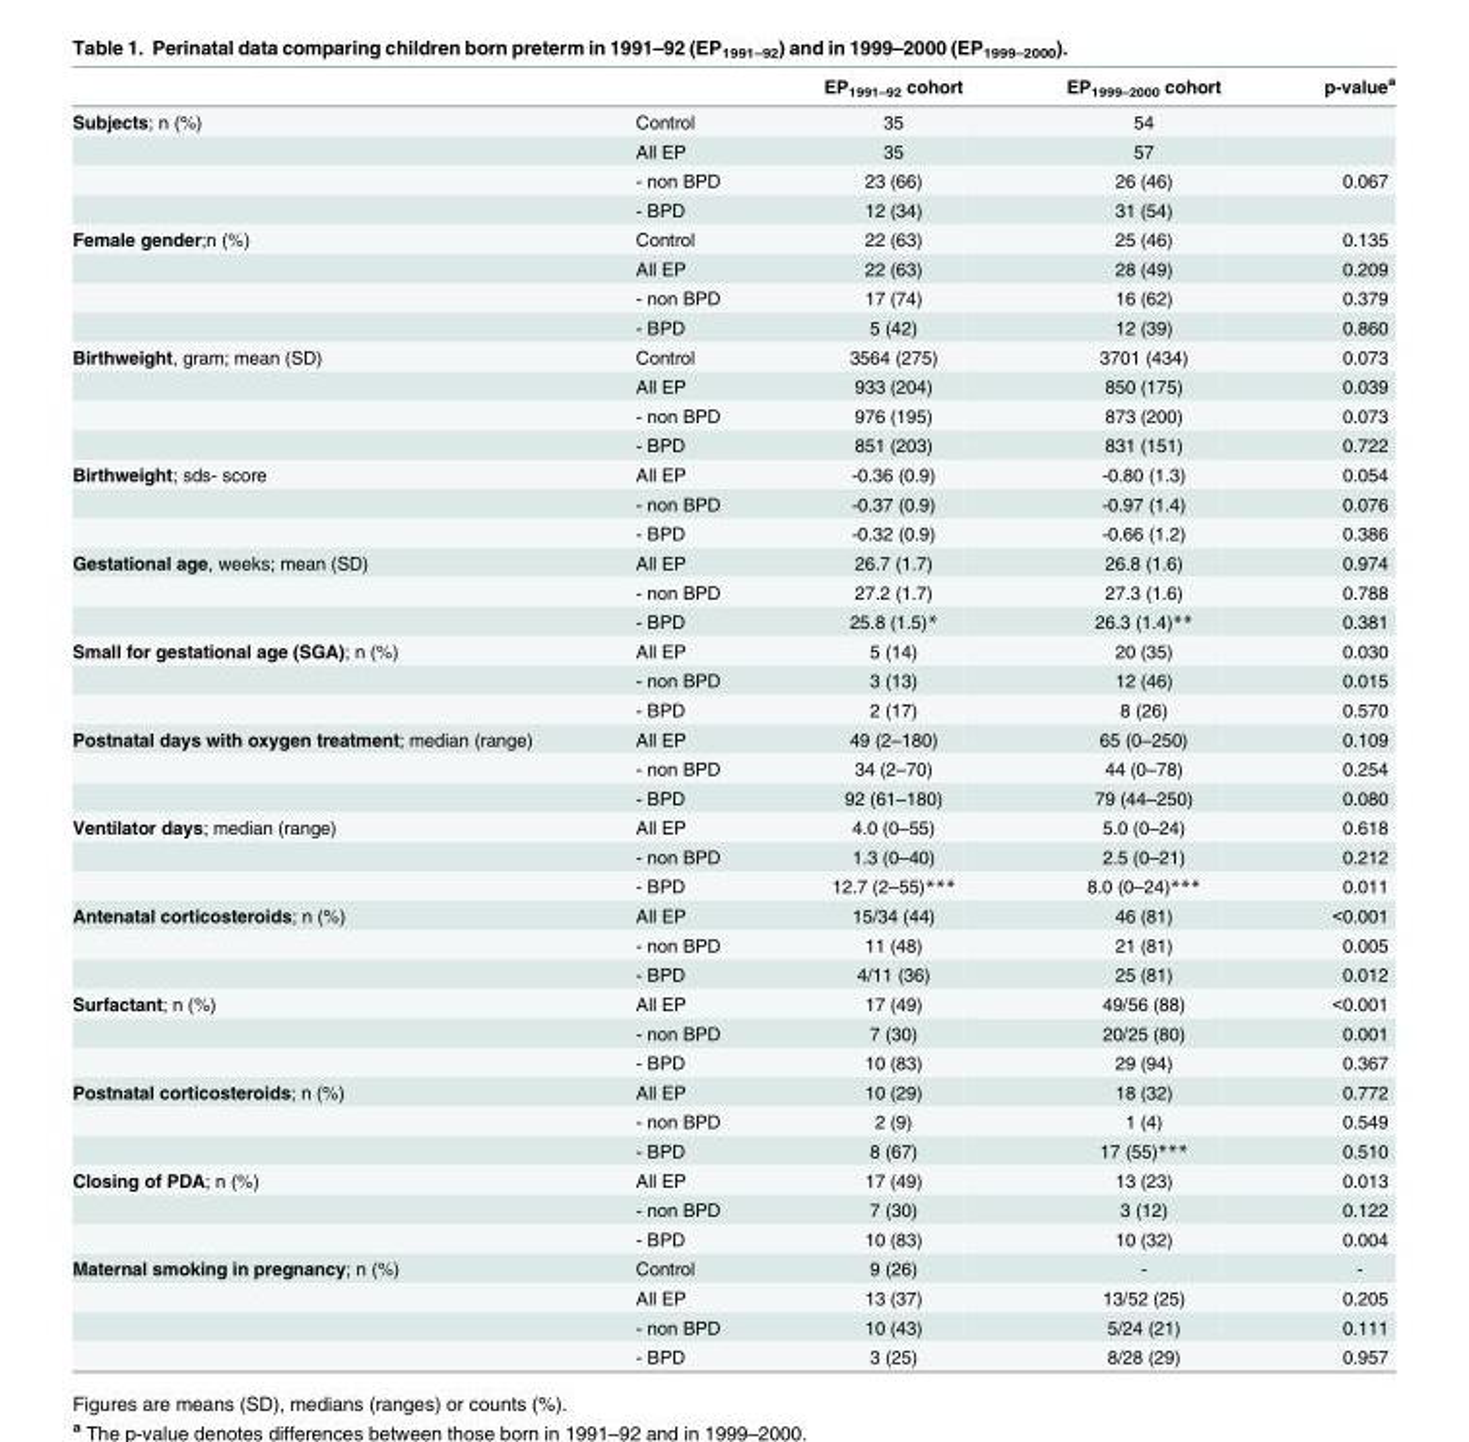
<table><thead><tr><td></td><td></td><td>EP<sub>1991–92</sub> cohort</td><td>EP<sub>1999–2000</sub> cohort</td><td>p-value<sup>a</sup></td></tr></thead><tbody><tr><td rowspan="4">Subjects; n (%)</td><td>Control</td><td>35</td><td>54</td><td></td></tr><tr><td>All EP</td><td>35</td><td>57</td><td></td></tr><tr><td>- non BPD</td><td>23 (66)</td><td>26 (46)</td><td>0.067</td></tr><tr><td>- BPD</td><td>12 (34)</td><td>31 (54)</td><td></td></tr><tr><td rowspan="4">Female gender;n (%)</td><td>Control</td><td>22 (63)</td><td>25 (46)</td><td>0.135</td></tr><tr><td>All EP</td><td>22 (63)</td><td>28 (49)</td><td>0.209</td></tr><tr><td>- non BPD</td><td>17 (74)</td><td>16 (62)</td><td>0.379</td></tr><tr><td>- BPD</td><td>5 (42)</td><td>12 (39)</td><td>0.860</td></tr><tr><td rowspan="4">Birthweight, gram; mean (SD)</td><td>Control</td><td>3564 (275)</td><td>3701 (434)</td><td>0.073</td></tr><tr><td>All EP</td><td>933 (204)</td><td>850 (175)</td><td>0.039</td></tr><tr><td>- non BPD</td><td>976 (195)</td><td>873 (200)</td><td>0.073</td></tr><tr><td>- BPD</td><td>851 (203)</td><td>831 (151)</td><td>0.722</td></tr><tr><td rowspan="3">Birthweight; sds- score</td><td>All EP</td><td>-0.36 (0.9)</td><td>-0.80 (1.3)</td><td>0.054</td></tr><tr><td>- non BPD</td><td>-0.37 (0.9)</td><td>-0.97 (1.4)</td><td>0.076</td></tr><tr><td>- BPD</td><td>-0.32 (0.9)</td><td>-0.66 (1.2)</td><td>0.386</td></tr><tr><td rowspan="3">Gestational age, weeks; mean (SD)</td><td>All EP</td><td>26.7 (1.7)</td><td>26.8 (1.6)</td><td>0.974</td></tr><tr><td>- non BPD</td><td>27.2 (1.7)</td><td>27.3 (1.6)</td><td>0.788</td></tr><tr><td>- BPD</td><td>25.8 (1.5)*</td><td>26.3 (1.4)**</td><td>0.381</td></tr><tr><td rowspan="3">Small for gestational age (SGA); n (%)</td><td>All EP</td><td>5 (14)</td><td>20 (35)</td><td>0.030</td></tr><tr><td>- non BPD</td><td>3 (13)</td><td>12 (46)</td><td>0.015</td></tr><tr><td>- BPD</td><td>2 (17)</td><td>8 (26)</td><td>0.570</td></tr><tr><td rowspan="3">Postnatal days with oxygen treatment; median (range)</td><td>All EP</td><td>49 (2–180)</td><td>65 (0–250)</td><td>0.109</td></tr><tr><td>- non BPD</td><td>34 (2–70)</td><td>44 (0–78)</td><td>0.254</td></tr><tr><td>- BPD</td><td>92 (61–180)</td><td>79 (44–250)</td><td>0.080</td></tr><tr><td rowspan="3">Ventilator days; median (range)</td><td>All EP</td><td>4.0 (0–55)</td><td>5.0 (0–24)</td><td>0.618</td></tr><tr><td>- non BPD</td><td>1.3 (0–40)</td><td>2.5 (0–21)</td><td>0.212</td></tr><tr><td>- BPD</td><td>12.7 (2–55)***</td><td>8.0 (0–24)***</td><td>0.011</td></tr><tr><td rowspan="3">Antenatal corticosteroids; n (%)</td><td>All EP</td><td>15/34 (44)</td><td>46 (81)</td><td>&lt;0.001</td></tr><tr><td>- non BPD</td><td>11 (48)</td><td>21 (81)</td><td>0.005</td></tr><tr><td>- BPD</td><td>4/11 (36)</td><td>25 (81)</td><td>0.012</td></tr><tr><td rowspan="3">Surfactant; n (%)</td><td>All EP</td><td>17 (49)</td><td>49/56 (88)</td><td>&lt;0.001</td></tr><tr><td>- non BPD</td><td>7 (30)</td><td>20/25 (80)</td><td>0.001</td></tr><tr><td>- BPD</td><td>10 (83)</td><td>29 (94)</td><td>0.367</td></tr><tr><td rowspan="3">Postnatal corticosteroids; n (%)</td><td>All EP</td><td>10 (29)</td><td>18 (32)</td><td>0.772</td></tr><tr><td>- non BPD</td><td>2 (9)</td><td>1 (4)</td><td>0.549</td></tr><tr><td>- BPD</td><td>8 (67)</td><td>17 (55)***</td><td>0.510</td></tr><tr><td rowspan="3">Closing of PDA; n (%)</td><td>All EP</td><td>17 (49)</td><td>13 (23)</td><td>0.013</td></tr><tr><td>- non BPD</td><td>7 (30)</td><td>3 (12)</td><td>0.122</td></tr><tr><td>- BPD</td><td>10 (83)</td><td>10 (32)</td><td>0.004</td></tr><tr><td rowspan="4">Maternal smoking in pregnancy; n (%)</td><td>Control</td><td>9 (26)</td><td>-</td><td>-</td></tr><tr><td>All EP</td><td>13 (37)</td><td>13/52 (25)</td><td>0.205</td></tr><tr><td>- non BPD</td><td>10 (43)</td><td>5/24 (21)</td><td>0.111</td></tr><tr><td>- BPD</td><td>3 (25)</td><td>8/28 (29)</td><td>0.957</td></tr></tbody></table>